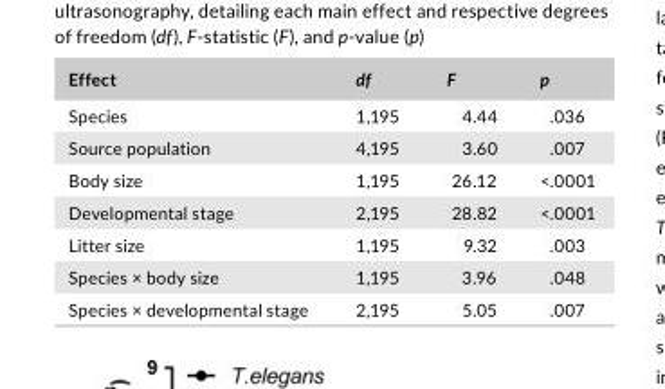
<table><thead><tr><td>Effect</td><td>df</td><td>F</td><td>p</td></tr></thead><tbody><tr><td>Species</td><td>1,195</td><td>4.44</td><td>.036</td></tr><tr><td>Source population</td><td>4,195</td><td>3.60</td><td>.007</td></tr><tr><td>Body size</td><td>1,195</td><td>26.12</td><td>&lt;.0001</td></tr><tr><td>Developmental stage</td><td>2,195</td><td>28.82</td><td>&lt;.0001</td></tr><tr><td>Litter size</td><td>1,195</td><td>9.32</td><td>.003</td></tr><tr><td>Species × body size</td><td>1,195</td><td>3.96</td><td>.048</td></tr><tr><td>Species × developmental stage</td><td>2,195</td><td>5.05</td><td>.007</td></tr></tbody></table>